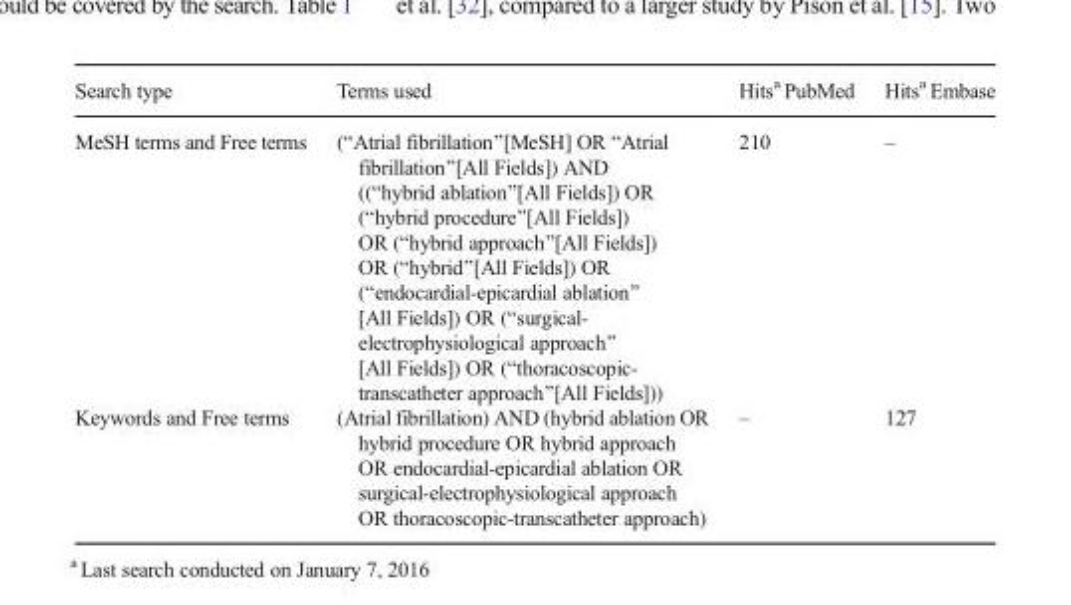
<table><thead><tr><td>Search type</td><td>Terms used</td><td>Hits<sup>a</sup> PubMed</td><td>Hits<sup>a</sup> Embase</td></tr></thead><tbody><tr><td>MeSH terms and Free terms</td><td>(“Atrial fibrillation”[MeSH] OR “Atrial fibrillation”[All Fields]) AND ((“hybrid ablation”[All Fields]) OR (“hybrid procedure”[All Fields]) OR (“hybrid approach”[All Fields]) OR (“hybrid”[All Fields]) OR (“endocardial-epicardial ablation” [All Fields]) OR (“surgical- electrophysiological approach” [All Fields]) OR (“thoracoscopic- transcatheter approach”[All Fields]))</td><td>210</td><td>–</td></tr><tr><td>Keywords and Free terms</td><td>(Atrial fibrillation) AND (hybrid ablation OR hybrid procedure OR hybrid approach OR endocardial-epicardial ablation OR surgical-electrophysiological approach OR thoracoscopic-transcatheter approach)</td><td>–</td><td>127</td></tr></tbody></table>